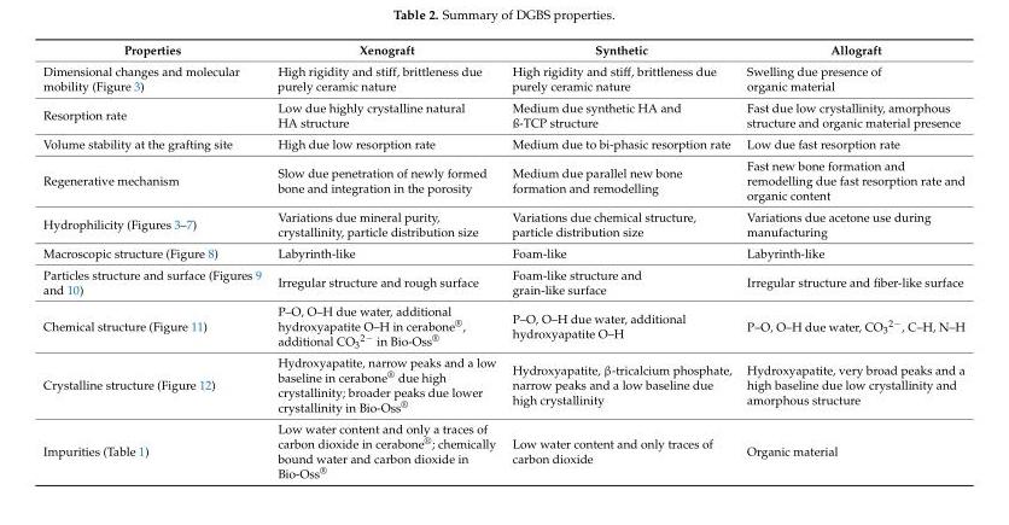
<table><thead><tr><td>Properties</td><td>Xenograft</td><td>Synthetic</td><td>Allograft</td></tr></thead><tbody><tr><td>Dimensional changes and molecular mobility (Figure 3)</td><td>High rigidity and stiff, brittleness due purely ceramic nature</td><td>High rigidity and stiff, brittleness due purely ceramic nature</td><td>Swelling due presence of organic material</td></tr><tr><td>Resorption rate</td><td>Low due highly crystalline natural HA structure</td><td>Medium due synthetic HA and ß-TCP structure</td><td>Fast due low crystallinity, amorphous structure and organic material presence</td></tr><tr><td>Volume stability at the grafting site</td><td>High due low resorption rate</td><td>Medium due to bi-phasic resorption rate</td><td>Low due fast resorption rate</td></tr><tr><td>Regenerative mechanism</td><td>Slow due penetration of newly formed bone and integration in the porosity</td><td>Medium due parallel new bone formation and remodelling</td><td>Fast new bone formation and remodelling due fast resorption rate and organic content</td></tr><tr><td>Hydrophilicity (Figures 3–7)</td><td>Variations due mineral purity, crystallinity, particle distribution size</td><td>Variations due chemical structure, particle distribution size</td><td>Variations due acetone use during manufacturing</td></tr><tr><td>Macroscopic structure (Figure 8)</td><td>Labyrinth-like</td><td>Foam-like</td><td>Labyrinth-like</td></tr><tr><td>Particles structure and surface (Figures 9 and 10)</td><td>Irregular structure and rough surface</td><td>Foam-like structure and grain-like surface</td><td>Irregular structure and fiber-like surface</td></tr><tr><td>Chemical structure (Figure 11)</td><td>P–O, O–H due water, additional hydroxyapatite O–H in cerabone<sup>®</sup>, additional CO<sub>3</sub><sup>2−</sup> in Bio-Oss<sup>®</sup></td><td>P–O, O–H due water, additional hydroxyapatite O–H</td><td>P–O, O–H due water, CO<sub>3</sub><sup>2−</sup>, C–H, N–H</td></tr><tr><td>Crystalline structure (Figure 12)</td><td>Hydroxyapatite, narrow peaks and a low baseline in cerabone<sup>®</sup> due high crystallinity; broader peaks due lower crystallinity in Bio-Oss<sup>®</sup></td><td>Hydroxyapatite, β-tricalcium phosphate, narrow peaks and a low baseline due high crystallinity</td><td>Hydroxyapatite, very broad peaks and a high baseline due low crystallinity and amorphous structure</td></tr><tr><td>Impurities (Table 1)</td><td>Low water content and only a traces of carbon dioxide in cerabone<sup>®</sup>; chemically bound water and carbon dioxide in Bio-Oss<sup>®</sup></td><td>Low water content and only traces of carbon dioxide</td><td>Organic material</td></tr></tbody></table>